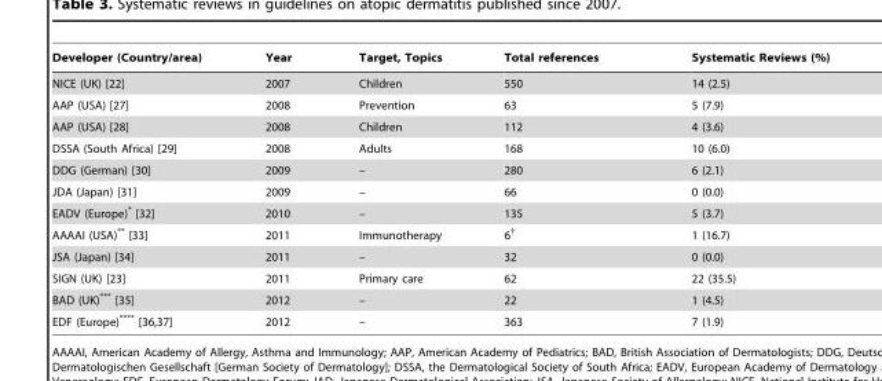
<table><thead><tr><td>Developer (Country/area)</td><td>Year</td><td>Target, Topics</td><td>Total references</td><td>Systematic Reviews (%)</td></tr></thead><tbody><tr><td>NICE (UK) [22]</td><td>2007</td><td>Children</td><td>550</td><td>14 (2.5)</td></tr><tr><td>AAP (USA) [27]</td><td>2008</td><td>Prevention</td><td>63</td><td>5 (7.9)</td></tr><tr><td>AAP (USA) [28]</td><td>2008</td><td>Children</td><td>112</td><td>4 (3.6)</td></tr><tr><td>DSSA (South Africa) [29]</td><td>2008</td><td>Adults</td><td>168</td><td>10 (6.0)</td></tr><tr><td>DDG (German) [30]</td><td>2009</td><td>–</td><td>280</td><td>6 (2.1)</td></tr><tr><td>JDA (Japan) [31]</td><td>2009</td><td>–</td><td>66</td><td>0 (0.0)</td></tr><tr><td>EADV (Europe)* [32]</td><td>2010</td><td>–</td><td>135</td><td>5 (3.7)</td></tr><tr><td>AAAAI (USA)** [33]</td><td>2011</td><td>Immunotherapy</td><td>6<sup>†</sup></td><td>1 (16.7)</td></tr><tr><td>JSA (Japan) [34]</td><td>2011</td><td>–</td><td>32</td><td>0 (0.0)</td></tr><tr><td>SIGN (UK) [23]</td><td>2011</td><td>Primary care</td><td>62</td><td>22 (35.5)</td></tr><tr><td>BAD (UK)*** [35]</td><td>2012</td><td>–</td><td>22</td><td>1 (4.5)</td></tr><tr><td>EDF (Europe)**** [36,37]</td><td>2012</td><td>–</td><td>363</td><td>7 (1.9)</td></tr></tbody></table>